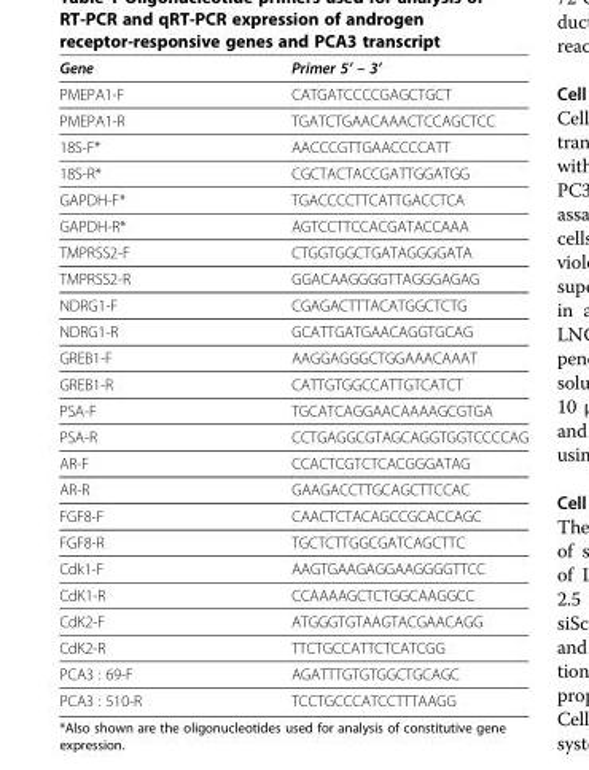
<table><thead><tr><td>Gene</td><td>Primer 5’ – 3’</td></tr></thead><tbody><tr><td>PMEPA1-F</td><td>CATGATCCCCGAGCTGCT</td></tr><tr><td>PMEPA1-R</td><td>TGATCTGAACAAACTCCAGCTCC</td></tr><tr><td>18S-F*</td><td>AACCCGTTGAACCCCATT</td></tr><tr><td>18S-R*</td><td>CGCTACTACCGATTGGATGG</td></tr><tr><td>GAPDH-F*</td><td>TGACCCCTTCATTGACCTCA</td></tr><tr><td>GAPDH-R*</td><td>AGTCCTTCCACGATACCAAA</td></tr><tr><td>TMPRSS2-F</td><td>CTGGTGGCTGATAGGGGATA</td></tr><tr><td>TMPRSS2-R</td><td>GGACAAGGGGTTAGGGAGAG</td></tr><tr><td>NDRG1-F</td><td>CGAGACTTTACATGGCTCTG</td></tr><tr><td>NDRG1-R</td><td>GCATTGATGAACAGGTGCAG</td></tr><tr><td>GREB1-F</td><td>AAGGAGGGCTGGAAACAAAT</td></tr><tr><td>GREB1-R</td><td>CATTGTGGCCATTGTCATCT</td></tr><tr><td>PSA-F</td><td>TGCATCAGGAACAAAAGCGTGA</td></tr><tr><td>PSA-R</td><td>CCTGAGGCGTAGCAGGTGGTCCCCAG</td></tr><tr><td>AR-F</td><td>CCACTCGTCTCACGGGATAG</td></tr><tr><td>AR-R</td><td>GAAGACCTTGCAGCTTCCAC</td></tr><tr><td>FGF8-F</td><td>CAACTCTACAGCCGCACCAGC</td></tr><tr><td>FGF8-R</td><td>TGCTCTTGGCGATCAGCTTC</td></tr><tr><td>Cdk1-F</td><td>AAGTGAAGAGGAAGGGGTTCC</td></tr><tr><td>CdK1-R</td><td>CCAAAAGCTCTGGCAAGGCC</td></tr><tr><td>CdK2-F</td><td>ATGGGTGTAAGTACGAACAGG</td></tr><tr><td>CdK2-R</td><td>TTCTGCCATTCTCATCGG</td></tr><tr><td>PCA3 : 69-F</td><td>AGATTTGTGTGGCTGCAGC</td></tr><tr><td>PCA3 : 510-R</td><td>TCCTGCCCATCCTTTAAGG</td></tr></tbody></table>